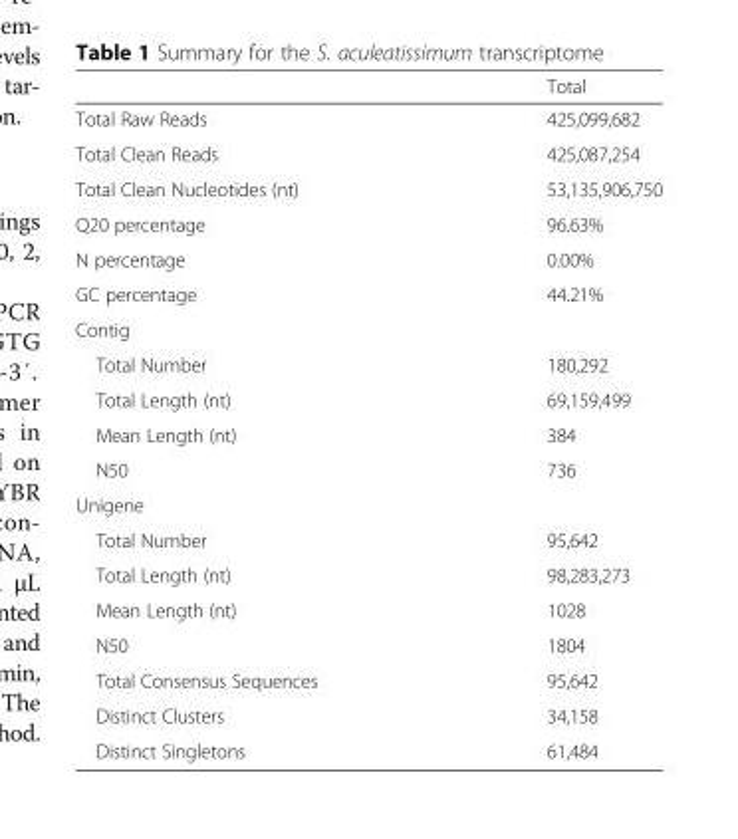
<table><thead><tr><td></td><td>Total</td></tr></thead><tbody><tr><td>Total Raw Reads</td><td>425,099,682</td></tr><tr><td>Total Clean Reads</td><td>425,087,254</td></tr><tr><td>Total Clean Nucleotides (nt)</td><td>53,135,906,750</td></tr><tr><td>Q20 percentage</td><td>96.63%</td></tr><tr><td>N percentage</td><td>0.00%</td></tr><tr><td>GC percentage</td><td>44.21%</td></tr><tr><td colspan="2">Contig</td></tr><tr><td>Total Number</td><td>180,292</td></tr><tr><td>Total Length (nt)</td><td>69,159,499</td></tr><tr><td>Mean Length (nt)</td><td>384</td></tr><tr><td>N50</td><td>736</td></tr><tr><td colspan="2">Unigene</td></tr><tr><td>Total Number</td><td>95,642</td></tr><tr><td>Total Length (nt)</td><td>98,283,273</td></tr><tr><td>Mean Length (nt)</td><td>1028</td></tr><tr><td>N50</td><td>1804</td></tr><tr><td>Total Consensus Sequences</td><td>95,642</td></tr><tr><td>Distinct Clusters</td><td>34,158</td></tr><tr><td>Distinct Singletons</td><td>61,484</td></tr></tbody></table>